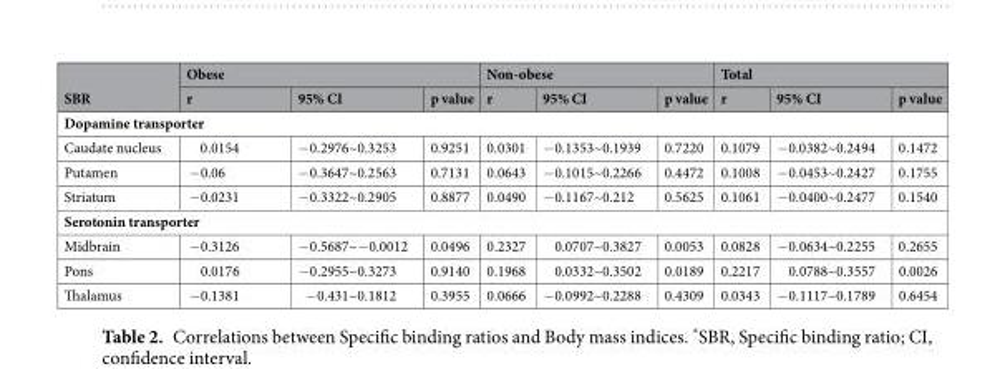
<table><thead><tr><td rowspan="2">SBR</td><td colspan="3">Obese</td><td colspan="3">Non-obese</td><td colspan="3">Total</td></tr><tr><td>r</td><td>95% CI</td><td>p value</td><td>r</td><td>95% CI</td><td>p value</td><td>r</td><td>95% CI</td><td>p value</td></tr></thead><tbody><tr><td colspan="10">Dopamine transporter</td></tr><tr><td>Caudate nucleus</td><td>0.0154</td><td>−0.2976~0.3253</td><td>0.9251</td><td>0.0301</td><td>−0.1353~0.1939</td><td>0.7220</td><td>0.1079</td><td>−0.0382~0.2494</td><td>0.1472</td></tr><tr><td>Putamen</td><td>−0.06</td><td>−0.3647~0.2563</td><td>0.7131</td><td>0.0643</td><td>−0.1015~0.2266</td><td>0.4472</td><td>0.1008</td><td>−0.0453~0.2427</td><td>0.1755</td></tr><tr><td>Striatum</td><td>−0.0231</td><td>−0.3322~0.2905</td><td>0.8877</td><td>0.0490</td><td>−0.1167~0.212</td><td>0.5625</td><td>0.1061</td><td>−0.0400~0.2477</td><td>0.1540</td></tr><tr><td colspan="10">Serotonin transporter</td></tr><tr><td>Midbrain</td><td>−0.3126</td><td>−0.5687~−0.0012</td><td>0.0496</td><td>0.2327</td><td>0.0707~0.3827</td><td>0.0053</td><td>0.0828</td><td>−0.0634~0.2255</td><td>0.2655</td></tr><tr><td>Pons</td><td>0.0176</td><td>−0.2955~0.3273</td><td>0.9140</td><td>0.1968</td><td>0.0332~0.3502</td><td>0.0189</td><td>0.2217</td><td>0.0788~0.3557</td><td>0.0026</td></tr><tr><td>Thalamus</td><td>−0.1381</td><td>−0.431~0.1812</td><td>0.3955</td><td>0.0666</td><td>−0.0992~0.2288</td><td>0.4309</td><td>0.0343</td><td>−0.1117~0.1789</td><td>0.6454</td></tr></tbody></table>